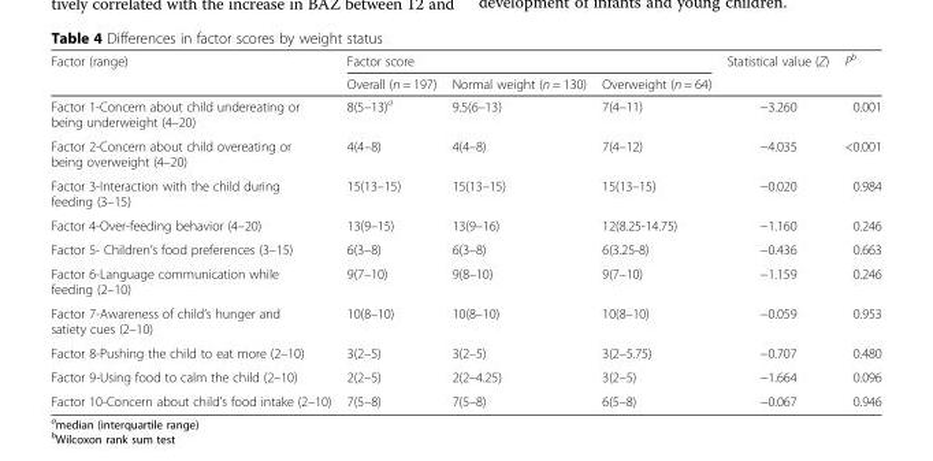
<table><thead><tr><td rowspan="2">Factor (range)</td><td colspan="3">Factor score</td><td rowspan="2">Statistical value (Z)</td><td rowspan="2">P<sup>b</sup></td></tr><tr><td>Overall (n = 197)</td><td>Normal weight (n = 130)</td><td>Overweight (n = 64)</td></tr></thead><tbody><tr><td>Factor 1-Concern about child undereating or being underweight (4–20)</td><td>8(5–13)<sup>a</sup></td><td>9.5(6–13)</td><td>7(4–11)</td><td>−3.260</td><td>0.001</td></tr><tr><td>Factor 2-Concern about child overeating or being overweight (4–20)</td><td>4(4–8)</td><td>4(4–8)</td><td>7(4–12)</td><td>−4.035</td><td>&lt;0.001</td></tr><tr><td>Factor 3-Interaction with the child during feeding (3–15)</td><td>15(13–15)</td><td>15(13–15)</td><td>15(13–15)</td><td>−0.020</td><td>0.984</td></tr><tr><td>Factor 4-Over-feeding behavior (4–20)</td><td>13(9–15)</td><td>13(9–16)</td><td>12(8.25-14.75)</td><td>−1.160</td><td>0.246</td></tr><tr><td>Factor 5- Children’s food preferences (3–15)</td><td>6(3–8)</td><td>6(3–8)</td><td>6(3.25-8)</td><td>−0.436</td><td>0.663</td></tr><tr><td>Factor 6-Language communication while feeding (2–10)</td><td>9(7–10)</td><td>9(8–10)</td><td>9(7–10)</td><td>−1.159</td><td>0.246</td></tr><tr><td>Factor 7-Awareness of child’s hunger and satiety cues (2–10)</td><td>10(8–10)</td><td>10(8–10)</td><td>10(8–10)</td><td>−0.059</td><td>0.953</td></tr><tr><td>Factor 8-Pushing the child to eat more (2–10)</td><td>3(2–5)</td><td>3(2–5)</td><td>3(2–5.75)</td><td>−0.707</td><td>0.480</td></tr><tr><td>Factor 9-Using food to calm the child (2–10)</td><td>2(2–5)</td><td>2(2–4.25)</td><td>3(2–5)</td><td>−1.664</td><td>0.096</td></tr><tr><td>Factor 10-Concern about child’s food intake (2–10)</td><td>7(5–8)</td><td>7(5–8)</td><td>6(5–8)</td><td>−0.067</td><td>0.946</td></tr></tbody></table>